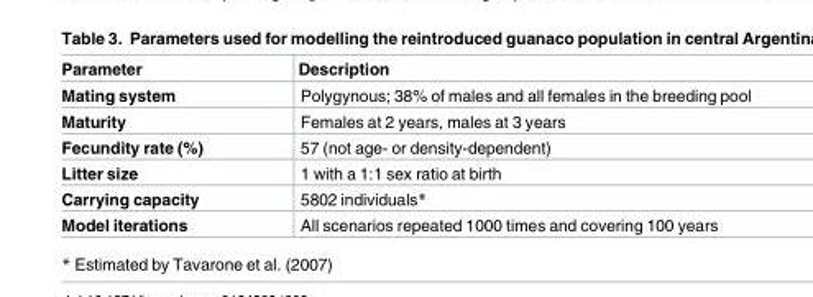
<table><thead><tr><td>Parameter</td><td>Description</td></tr></thead><tbody><tr><td>Mating system</td><td>Polygynous; 38% of males and all females in the breeding pool</td></tr><tr><td>Maturity</td><td>Females at 2 years, males at 3 years</td></tr><tr><td>Fecundity rate (%)</td><td>57 (not age- or density-dependent)</td></tr><tr><td>Litter size</td><td>1 with a 1:1 sex ratio at birth</td></tr><tr><td>Carrying capacity</td><td>5802 individuals*</td></tr><tr><td>Model iterations</td><td>All scenarios repeated 1000 times and covering 100 years</td></tr></tbody></table>